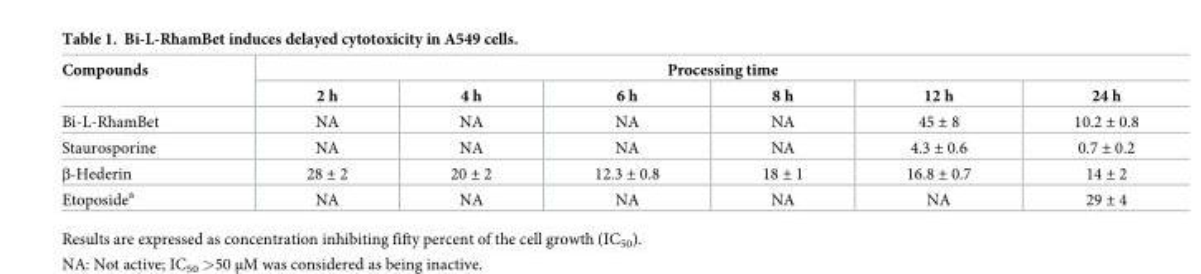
<table><thead><tr><td rowspan="2">Compounds</td><td colspan="6">Processing time</td></tr><tr><td>2 h</td><td>4 h</td><td>6 h</td><td>8 h</td><td>12 h</td><td>24 h</td></tr></thead><tbody><tr><td>Bi-L-RhamBet</td><td>NA</td><td>NA</td><td>NA</td><td>NA</td><td>45 ± 8</td><td>10.2 ± 0.8</td></tr><tr><td>Staurosporine</td><td>NA</td><td>NA</td><td>NA</td><td>NA</td><td>4.3 ± 0.6</td><td>0.7 ± 0.2</td></tr><tr><td>β-Hederin</td><td>28 ± 2</td><td>20 ± 2</td><td>12.3 ± 0.8</td><td>18 ± 1</td><td>16.8 ± 0.7</td><td>14 ± 2</td></tr><tr><td>Etoposide<sup>a</sup></td><td>NA</td><td>NA</td><td>NA</td><td>NA</td><td>NA</td><td>29 ± 4</td></tr></tbody></table>